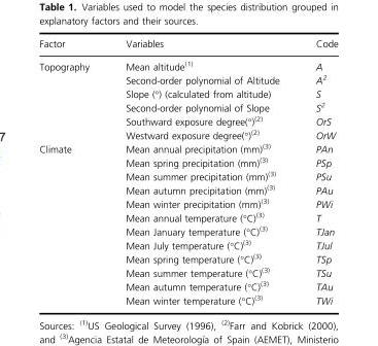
<table><thead><tr><td>Factor</td><td>Variables</td><td>Code</td></tr></thead><tbody><tr><td rowspan="6">Topography</td><td>Mean altitude<sup>(1)</sup></td><td>A</td></tr><tr><td>Second-order polynomial of Altitude</td><td>A<sup>2</sup></td></tr><tr><td>Slope (°) (calculated from altitude)</td><td>S</td></tr><tr><td>Second-order polynomial of Slope</td><td>S<sup>2</sup></td></tr><tr><td>Southward exposure degree(°)<sup>(2)</sup></td><td>OrS</td></tr><tr><td>Westward exposure degree(°)<sup>(2)</sup></td><td>OrW</td></tr><tr><td rowspan="12">Climate</td><td>Mean annual precipitation (mm)<sup>(3)</sup></td><td>PAn</td></tr><tr><td>Mean spring precipitation (mm)<sup>(3)</sup></td><td>PSp</td></tr><tr><td>Mean summer precipitation (mm)<sup>(3)</sup></td><td>PSu</td></tr><tr><td>Mean autumn precipitation (mm)<sup>(3)</sup></td><td>PAu</td></tr><tr><td>Mean winter precipitation (mm)<sup>(3)</sup></td><td>PWi</td></tr><tr><td>Mean annual temperature (°C)<sup>(3)</sup></td><td>T</td></tr><tr><td>Mean January temperature (°C)<sup>(3)</sup></td><td>TJan</td></tr><tr><td>Mean July temperature (°C)<sup>(3)</sup></td><td>TJul</td></tr><tr><td>Mean spring temperature (°C)<sup>(3)</sup></td><td>TSp</td></tr><tr><td>Mean summer temperature (°C)<sup>(3)</sup></td><td>TSu</td></tr><tr><td>Mean autumn temperature (°C)<sup>(3)</sup></td><td>TAu</td></tr><tr><td>Mean winter temperature (°C)<sup>(3)</sup></td><td>TWi</td></tr></tbody></table>